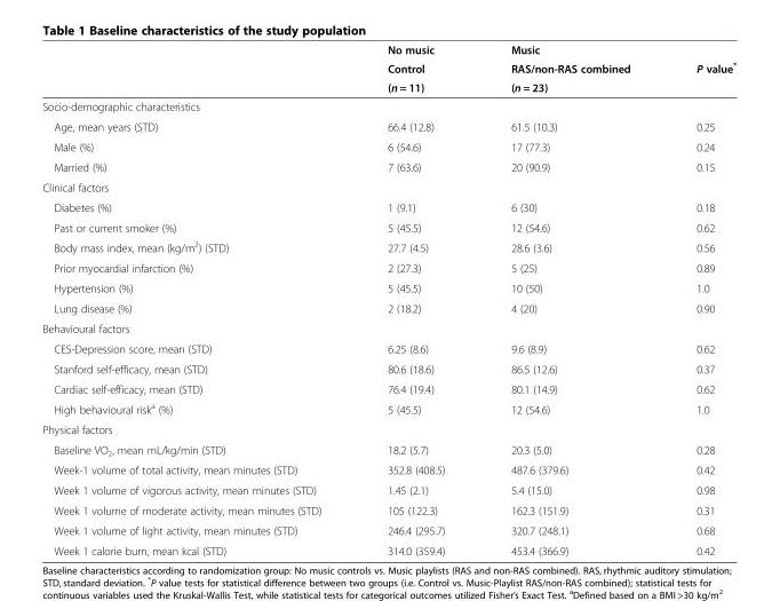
<table><thead><tr><td rowspan="3"></td><td rowspan="3">No music Control (n = 11)</td><td rowspan="3">Music RAS/non-RAS combined (n = 23)</td><td rowspan="3">P value*</td></tr><tr></tr><tr></tr></thead><tbody><tr><td colspan="4">Socio-demographic characteristics</td></tr><tr><td>Age, mean years (STD)</td><td>66.4 (12.8)</td><td>61.5 (10.3)</td><td>0.25</td></tr><tr><td>Male (%)</td><td>6 (54.6)</td><td>17 (77.3)</td><td>0.24</td></tr><tr><td>Married (%)</td><td>7 (63.6)</td><td>20 (90.9)</td><td>0.15</td></tr><tr><td colspan="4">Clinical factors</td></tr><tr><td>Diabetes (%)</td><td>1 (9.1)</td><td>6 (30)</td><td>0.18</td></tr><tr><td>Past or current smoker (%)</td><td>5 (45.5)</td><td>12 (54.6)</td><td>0.62</td></tr><tr><td>Body mass index, mean (kg/m<sup>2</sup>) (STD)</td><td>27.7 (4.5)</td><td>28.6 (3.6)</td><td>0.56</td></tr><tr><td>Prior myocardial infarction (%)</td><td>2 (27.3)</td><td>5 (25)</td><td>0.89</td></tr><tr><td>Hypertension (%)</td><td>5 (45.5)</td><td>10 (50)</td><td>1.0</td></tr><tr><td>Lung disease (%)</td><td>2 (18.2)</td><td>4 (20)</td><td>0.90</td></tr><tr><td colspan="4">Behavioural factors</td></tr><tr><td>CES-Depression score, mean (STD)</td><td>6.25 (8.6)</td><td>9.6 (8.9)</td><td>0.62</td></tr><tr><td>Stanford self-efficacy, mean (STD)</td><td>80.6 (18.6)</td><td>86.5 (12.6)</td><td>0.37</td></tr><tr><td>Cardiac self-efficacy, mean (STD)</td><td>76.4 (19.4)</td><td>80.1 (14.9)</td><td>0.62</td></tr><tr><td>High behavioural risk<sup>a</sup> (%)</td><td>5 (45.5)</td><td>12 (54.6)</td><td>1.0</td></tr><tr><td colspan="4">Physical factors</td></tr><tr><td>Baseline VO<sub>2</sub>, mean mL/kg/min (STD)</td><td>18.2 (5.7)</td><td>20.3 (5.0)</td><td>0.28</td></tr><tr><td>Week-1 volume of total activity, mean minutes (STD)</td><td>352.8 (408.5)</td><td>487.6 (379.6)</td><td>0.42</td></tr><tr><td>Week 1 volume of vigorous activity, mean minutes (STD)</td><td>1.45 (2.1)</td><td>5.4 (15.0)</td><td>0.98</td></tr><tr><td>Week 1 volume of moderate activity, mean minutes (STD)</td><td>105 (122.3)</td><td>162.3 (151.9)</td><td>0.31</td></tr><tr><td>Week 1 volume of light activity, mean minutes (STD)</td><td>246.4 (295.7)</td><td>320.7 (248.1)</td><td>0.68</td></tr><tr><td>Week 1 calorie burn, mean kcal (STD)</td><td>314.0 (359.4)</td><td>453.4 (366.9)</td><td>0.42</td></tr></tbody></table>